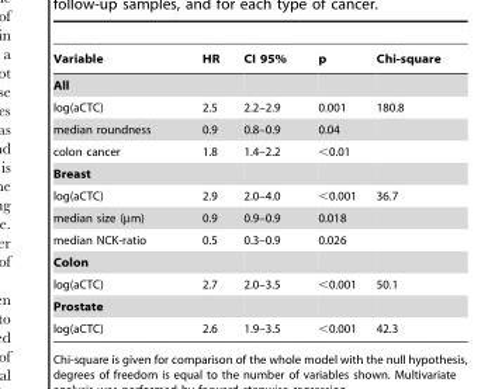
<table><thead><tr><td>Variable</td><td>HR</td><td>CI 95%</td><td>p</td><td>Chi-square</td></tr></thead><tbody><tr><td colspan="5">All</td></tr><tr><td>log(aCTC)</td><td>2.5</td><td>2.2–2.9</td><td>0.001</td><td>180.8</td></tr><tr><td>median roundness</td><td>0.9</td><td>0.8–0.9</td><td>0.04</td><td></td></tr><tr><td>colon cancer</td><td>1.8</td><td>1.4–2.2</td><td>&lt;0.01</td><td></td></tr><tr><td colspan="5">Breast</td></tr><tr><td>log(aCTC)</td><td>2.9</td><td>2.0–4.0</td><td>&lt;0.001</td><td>36.7</td></tr><tr><td>median size (µm)</td><td>0.9</td><td>0.9–0.9</td><td>0.018</td><td></td></tr><tr><td>median NCK-ratio</td><td>0.5</td><td>0.3–0.9</td><td>0.026</td><td></td></tr><tr><td colspan="5">Colon</td></tr><tr><td>log(aCTC)</td><td>2.7</td><td>2.0–3.5</td><td>&lt;0.001</td><td>50.1</td></tr><tr><td colspan="5">Prostate</td></tr><tr><td>log(aCTC)</td><td>2.6</td><td>1.9–3.5</td><td>&lt;0.001</td><td>42.3</td></tr></tbody></table>